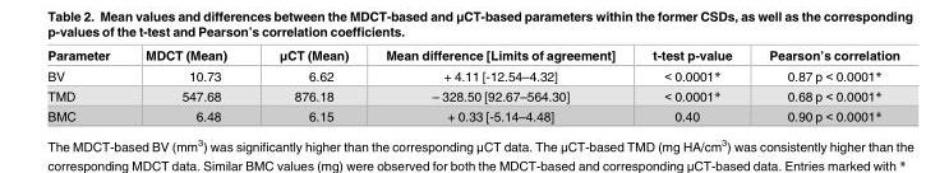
<table><thead><tr><td>Parameter</td><td>MDCT (Mean)</td><td>μCT (Mean)</td><td>Mean difference [Limits of agreement]</td><td>t-test p-value</td><td>Pearson’s correlation</td></tr></thead><tbody><tr><td>BV</td><td>10.73</td><td>6.62</td><td>+ 4.11 [-12.54–4.32]</td><td>&lt; 0.0001*</td><td>0.87 p &lt; 0.0001*</td></tr><tr><td>TMD</td><td>547.68</td><td>876.18</td><td>– 328.50 [92.67–564.30]</td><td>&lt; 0.0001*</td><td>0.68 p &lt; 0.0001*</td></tr><tr><td>BMC</td><td>6.48</td><td>6.15</td><td>+ 0.33 [-5.14–4.48]</td><td>0.40</td><td>0.90 p &lt; 0.0001*</td></tr></tbody></table>